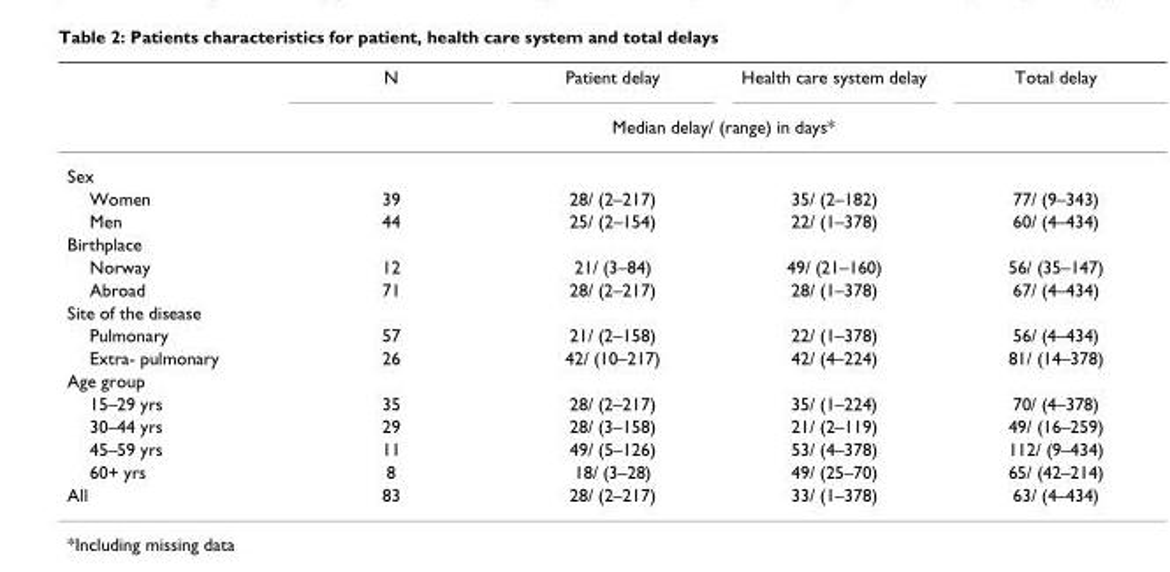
<table><thead><tr><td rowspan="2"></td><td rowspan="2">N</td><td>Patient delay</td><td>Health care system delay</td><td rowspan="2">Total delay</td></tr><tr><td colspan="2">Median delay/ (range) in days*</td></tr></thead><tbody><tr><td colspan="5">Sex</td></tr><tr><td>Women</td><td>39</td><td>28/ (2–217)</td><td>35/ (2–182)</td><td>77/ (9–343)</td></tr><tr><td>Men</td><td>44</td><td>25/ (2–154)</td><td>22/ (1–378)</td><td>60/ (4–434)</td></tr><tr><td colspan="5">Birthplace</td></tr><tr><td>Norway</td><td>12</td><td>21/ (3–84)</td><td>49/ (21–160)</td><td>56/ (35–147)</td></tr><tr><td>Abroad</td><td>71</td><td>28/ (2–217)</td><td>28/ (1–378)</td><td>67/ (4–434)</td></tr><tr><td colspan="5">Site of the disease</td></tr><tr><td>Pulmonary</td><td>57</td><td>21/ (2–158)</td><td>22/ (1–378)</td><td>56/ (4–434)</td></tr><tr><td>Extra- pulmonary</td><td>26</td><td>42/ (10–217)</td><td>42/ (4–224)</td><td>81/ (14–378)</td></tr><tr><td colspan="5">Age group</td></tr><tr><td>15–29 yrs</td><td>35</td><td>28/ (2–217)</td><td>35/ (1–224)</td><td>70/ (4–378)</td></tr><tr><td>30–44 yrs</td><td>29</td><td>28/ (3–158)</td><td>21/ (2–119)</td><td>49/ (16–259)</td></tr><tr><td>45–59 yrs</td><td>11</td><td>49/ (5–126)</td><td>53/ (4–378)</td><td>112/ (9–434)</td></tr><tr><td>60+ yrs</td><td>8</td><td>18/ (3–28)</td><td>49/ (25–70)</td><td>65/ (42–214)</td></tr><tr><td>All</td><td>83</td><td>28/ (2–217)</td><td>33/ (1–378)</td><td>63/ (4–434)</td></tr></tbody></table>